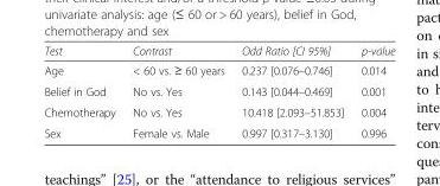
<table><thead><tr><td>Test</td><td>Contrast</td><td>Odd Ratio [CI 95%]</td><td>p-value</td></tr></thead><tbody><tr><td>Age</td><td>&lt; 60 vs. ≥ 60 years</td><td>0.237 [0.076–0.746]</td><td>0.014</td></tr><tr><td>Belief in God</td><td>No vs. Yes</td><td>0.143 [0.044–0.469]</td><td>0.001</td></tr><tr><td>Chemotherapy</td><td>No vs. Yes</td><td>10.418 [2.093–51.853]</td><td>0.004</td></tr><tr><td>Sex</td><td>Female vs. Male</td><td>0.997 [0.317–3.130]</td><td>0.996</td></tr></tbody></table>